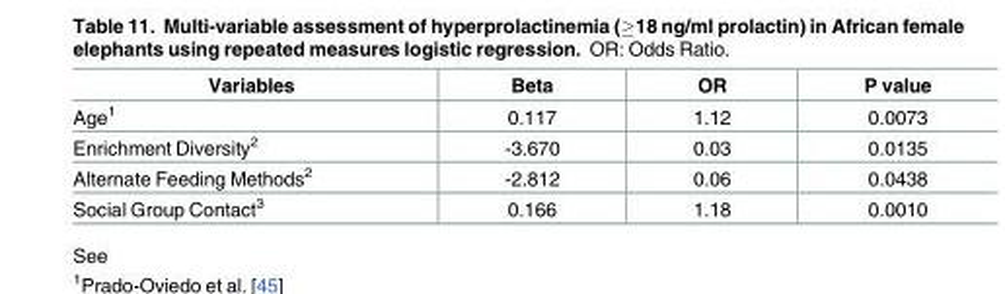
<table><thead><tr><td>Variables</td><td>Beta</td><td>OR</td><td>P value</td></tr></thead><tbody><tr><td>Age<sup>1</sup></td><td>0.117</td><td>1.12</td><td>0.0073</td></tr><tr><td>Enrichment Diversity<sup>2</sup></td><td>-3.670</td><td>0.03</td><td>0.0135</td></tr><tr><td>Alternate Feeding Methods<sup>2</sup></td><td>-2.812</td><td>0.06</td><td>0.0438</td></tr><tr><td>Social Group Contact<sup>3</sup></td><td>0.166</td><td>1.18</td><td>0.0010</td></tr></tbody></table>